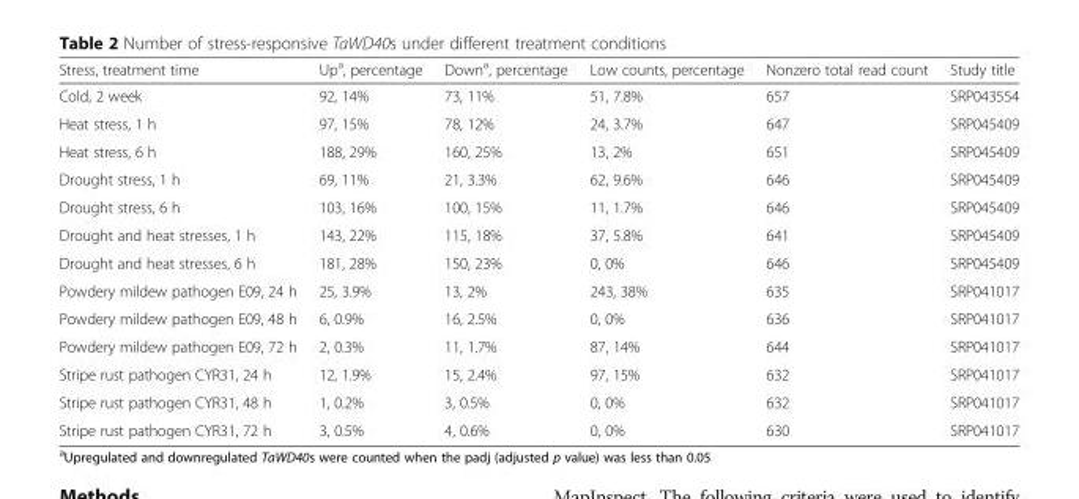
<table><thead><tr><td>Stress, treatment time</td><td>Up<sup>a</sup>, percentage</td><td>Down<sup>a</sup>, percentage</td><td>Low counts, percentage</td><td>Nonzero total read count</td><td>Study title</td></tr></thead><tbody><tr><td>Cold, 2 week</td><td>92, 14%</td><td>73, 11%</td><td>51, 7.8%</td><td>657</td><td>SRP043554</td></tr><tr><td>Heat stress, 1 h</td><td>97, 15%</td><td>78, 12%</td><td>24, 3.7%</td><td>647</td><td>SRP045409</td></tr><tr><td>Heat stress, 6 h</td><td>188, 29%</td><td>160, 25%</td><td>13, 2%</td><td>651</td><td>SRP045409</td></tr><tr><td>Drought stress, 1 h</td><td>69, 11%</td><td>21, 3.3%</td><td>62, 9.6%</td><td>646</td><td>SRP045409</td></tr><tr><td>Drought stress, 6 h</td><td>103, 16%</td><td>100, 15%</td><td>11, 1.7%</td><td>646</td><td>SRP045409</td></tr><tr><td>Drought and heat stresses, 1 h</td><td>143, 22%</td><td>115, 18%</td><td>37, 5.8%</td><td>641</td><td>SRP045409</td></tr><tr><td>Drought and heat stresses, 6 h</td><td>181, 28%</td><td>150, 23%</td><td>0, 0%</td><td>646</td><td>SRP045409</td></tr><tr><td>Powdery mildew pathogen E09, 24 h</td><td>25, 3.9%</td><td>13, 2%</td><td>243, 38%</td><td>635</td><td>SRP041017</td></tr><tr><td>Powdery mildew pathogen E09, 48 h</td><td>6, 0.9%</td><td>16, 2.5%</td><td>0, 0%</td><td>636</td><td>SRP041017</td></tr><tr><td>Powdery mildew pathogen E09, 72 h</td><td>2, 0.3%</td><td>11, 1.7%</td><td>87, 14%</td><td>644</td><td>SRP041017</td></tr><tr><td>Stripe rust pathogen CYR31, 24 h</td><td>12, 1.9%</td><td>15, 2.4%</td><td>97, 15%</td><td>632</td><td>SRP041017</td></tr><tr><td>Stripe rust pathogen CYR31, 48 h</td><td>1, 0.2%</td><td>3, 0.5%</td><td>0, 0%</td><td>632</td><td>SRP041017</td></tr><tr><td>Stripe rust pathogen CYR31, 72 h</td><td>3, 0.5%</td><td>4, 0.6%</td><td>0, 0%</td><td>630</td><td>SRP041017</td></tr></tbody></table>